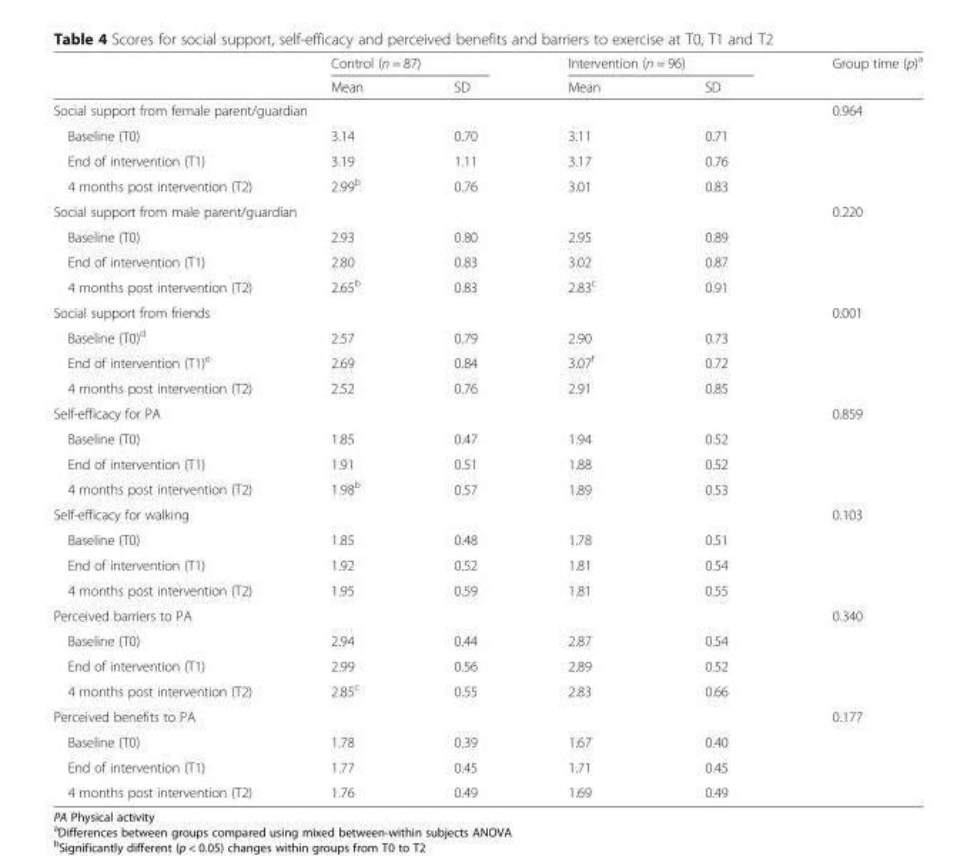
<table><thead><tr><td rowspan="2"></td><td colspan="2">Control (n = 87)</td><td colspan="2">Intervention (n = 96)</td><td rowspan="2">Group time (p)<sup>a</sup></td></tr><tr><td>Mean</td><td>SD</td><td>Mean</td><td>SD</td></tr></thead><tbody><tr><td colspan="5">Social support from female parent/guardian</td><td>0.964</td></tr><tr><td>Baseline (T0)</td><td>3.14</td><td>0.70</td><td>3.11</td><td>0.71</td><td></td></tr><tr><td>End of intervention (T1)</td><td>3.19</td><td>1.11</td><td>3.17</td><td>0.76</td><td></td></tr><tr><td>4 months post intervention (T2)</td><td>2.99<sup>b</sup></td><td>0.76</td><td>3.01</td><td>0.83</td><td></td></tr><tr><td colspan="5">Social support from male parent/guardian</td><td>0.220</td></tr><tr><td>Baseline (T0)</td><td>2.93</td><td>0.80</td><td>2.95</td><td>0.89</td><td></td></tr><tr><td>End of intervention (T1)</td><td>2.80</td><td>0.83</td><td>3.02</td><td>0.87</td><td></td></tr><tr><td>4 months post intervention (T2)</td><td>2.65<sup>b</sup></td><td>0.83</td><td>2.83<sup>c</sup></td><td>0.91</td><td></td></tr><tr><td colspan="5">Social support from friends</td><td>0.001</td></tr><tr><td>Baseline (T0)<sup>d</sup></td><td>2.57</td><td>0.79</td><td>2.90</td><td>0.73</td><td></td></tr><tr><td>End of intervention (T1)<sup>e</sup></td><td>2.69</td><td>0.84</td><td>3.07<sup>f</sup></td><td>0.72</td><td></td></tr><tr><td>4 months post intervention (T2)</td><td>2.52</td><td>0.76</td><td>2.91</td><td>0.85</td><td></td></tr><tr><td colspan="5">Self-efficacy for PA</td><td>0.859</td></tr><tr><td>Baseline (T0)</td><td>1.85</td><td>0.47</td><td>1.94</td><td>0.52</td><td></td></tr><tr><td>End of intervention (T1)</td><td>1.91</td><td>0.51</td><td>1.88</td><td>0.52</td><td></td></tr><tr><td>4 months post intervention (T2)</td><td>1.98<sup>b</sup></td><td>0.57</td><td>1.89</td><td>0.53</td><td></td></tr><tr><td colspan="5">Self-efficacy for walking</td><td>0.103</td></tr><tr><td>Baseline (T0)</td><td>1.85</td><td>0.48</td><td>1.78</td><td>0.51</td><td></td></tr><tr><td>End of intervention (T1)</td><td>1.92</td><td>0.52</td><td>1.81</td><td>0.54</td><td></td></tr><tr><td>4 months post intervention (T2)</td><td>1.95</td><td>0.59</td><td>1.81</td><td>0.55</td><td></td></tr><tr><td colspan="5">Perceived barriers to PA</td><td>0.340</td></tr><tr><td>Baseline (T0)</td><td>2.94</td><td>0.44</td><td>2.87</td><td>0.54</td><td></td></tr><tr><td>End of intervention (T1)</td><td>2.99</td><td>0.56</td><td>2.89</td><td>0.52</td><td></td></tr><tr><td>4 months post intervention (T2)</td><td>2.85<sup>c</sup></td><td>0.55</td><td>2.83</td><td>0.66</td><td></td></tr><tr><td colspan="5">Perceived benefits to PA</td><td>0.177</td></tr><tr><td>Baseline (T0)</td><td>1.78</td><td>0.39</td><td>1.67</td><td>0.40</td><td></td></tr><tr><td>End of intervention (T1)</td><td>1.77</td><td>0.45</td><td>1.71</td><td>0.45</td><td></td></tr><tr><td>4 months post intervention (T2)</td><td>1.76</td><td>0.49</td><td>1.69</td><td>0.49</td><td></td></tr></tbody></table>